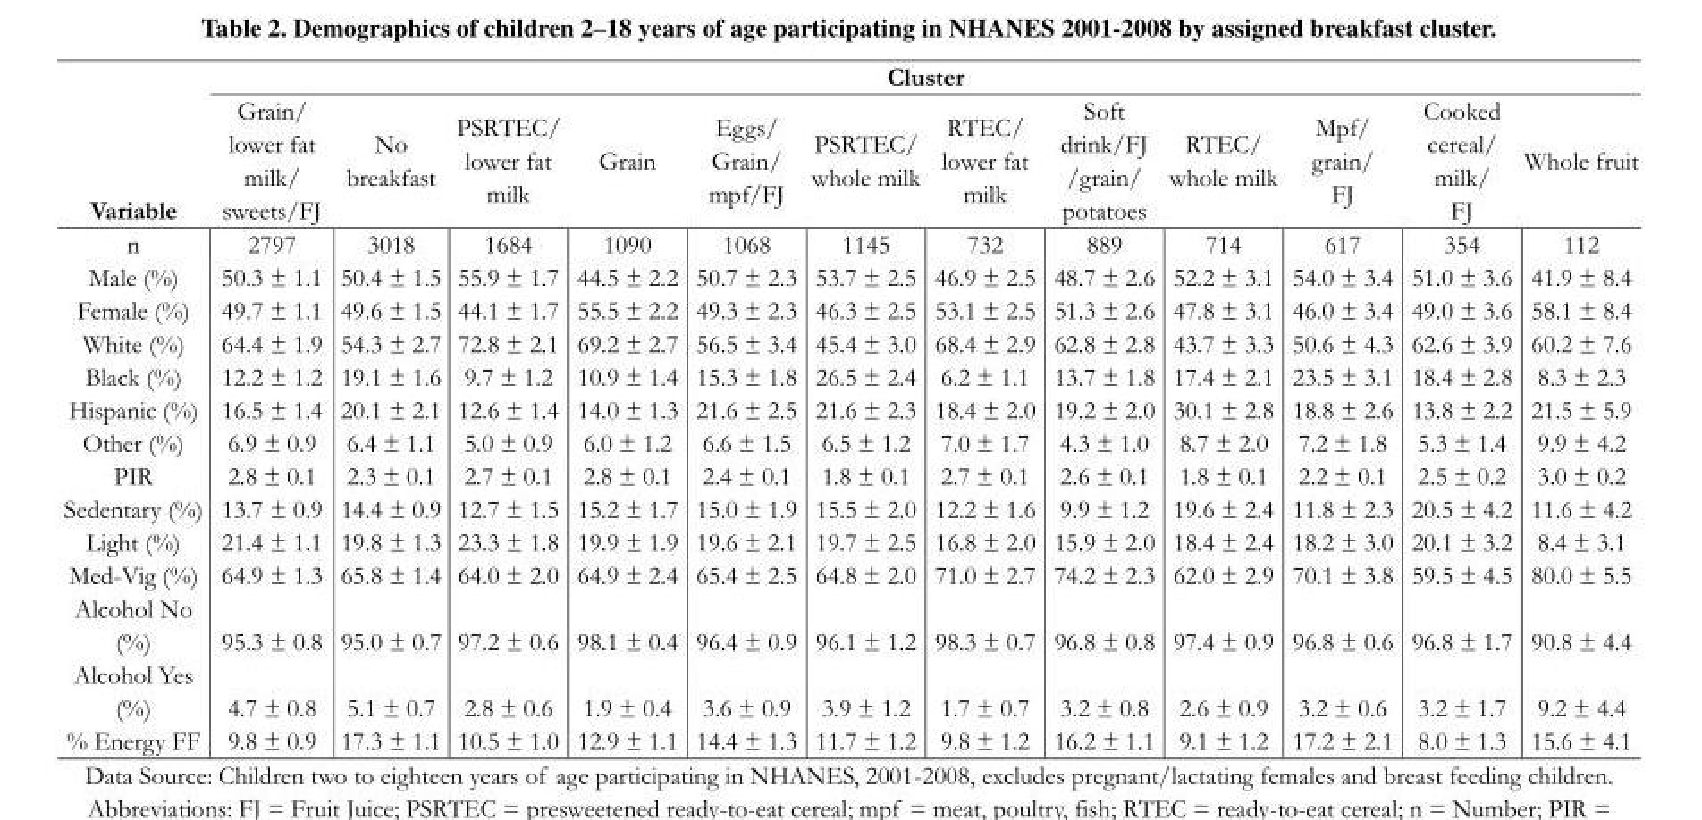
<table><thead><tr><td rowspan="2">Variable</td><td colspan="12">Cluster</td></tr><tr><td>Grain/ lower fat milk/ sweets/FJ</td><td>No breakfast</td><td>PSRTEC/ lower fat milk</td><td>Grain</td><td>Eggs/ Grain/ mpf/FJ</td><td>PSRTEC/ whole milk</td><td>RTEC/ lower fat milk</td><td>Soft drink/FJ /grain/ potatoes</td><td>RTEC/ whole milk</td><td>Mpf/ grain/ FJ</td><td>Cooked cereal/ milk/ FJ</td><td>Whole fruit</td></tr></thead><tbody><tr><td>n</td><td>2797</td><td>3018</td><td>1684</td><td>1090</td><td>1068</td><td>1145</td><td>732</td><td>889</td><td>714</td><td>617</td><td>354</td><td>112</td></tr><tr><td>Male (%)</td><td>50.3 ± 1.1</td><td>50.4 ± 1.5</td><td>55.9 ± 1.7</td><td>44.5 ± 2.2</td><td>50.7 ± 2.3</td><td>53.7 ± 2.5</td><td>46.9 ± 2.5</td><td>48.7 ± 2.6</td><td>52.2 ± 3.1</td><td>54.0 ± 3.4</td><td>51.0 ± 3.6</td><td>41.9 ± 8.4</td></tr><tr><td>Female (%)</td><td>49.7 ± 1.1</td><td>49.6 ± 1.5</td><td>44.1 ± 1.7</td><td>55.5 ± 2.2</td><td>49.3 ± 2.3</td><td>46.3 ± 2.5</td><td>53.1 ± 2.5</td><td>51.3 ± 2.6</td><td>47.8 ± 3.1</td><td>46.0 ± 3.4</td><td>49.0 ± 3.6</td><td>58.1 ± 8.4</td></tr><tr><td>White (%)</td><td>64.4 ± 1.9</td><td>54.3 ± 2.7</td><td>72.8 ± 2.1</td><td>69.2 ± 2.7</td><td>56.5 ± 3.4</td><td>45.4 ± 3.0</td><td>68.4 ± 2.9</td><td>62.8 ± 2.8</td><td>43.7 ± 3.3</td><td>50.6 ± 4.3</td><td>62.6 ± 3.9</td><td>60.2 ± 7.6</td></tr><tr><td>Black (%)</td><td>12.2 ± 1.2</td><td>19.1 ± 1.6</td><td>9.7 ± 1.2</td><td>10.9 ± 1.4</td><td>15.3 ± 1.8</td><td>26.5 ± 2.4</td><td>6.2 ± 1.1</td><td>13.7 ± 1.8</td><td>17.4 ± 2.1</td><td>23.5 ± 3.1</td><td>18.4 ± 2.8</td><td>8.3 ± 2.3</td></tr><tr><td>Hispanic (%)</td><td>16.5 ± 1.4</td><td>20.1 ± 2.1</td><td>12.6 ± 1.4</td><td>14.0 ± 1.3</td><td>21.6 ± 2.5</td><td>21.6 ± 2.3</td><td>18.4 ± 2.0</td><td>19.2 ± 2.0</td><td>30.1 ± 2.8</td><td>18.8 ± 2.6</td><td>13.8 ± 2.2</td><td>21.5 ± 5.9</td></tr><tr><td>Other (%)</td><td>6.9 ± 0.9</td><td>6.4 ± 1.1</td><td>5.0 ± 0.9</td><td>6.0 ± 1.2</td><td>6.6 ± 1.5</td><td>6.5 ± 1.2</td><td>7.0 ± 1.7</td><td>4.3 ± 1.0</td><td>8.7 ± 2.0</td><td>7.2 ± 1.8</td><td>5.3 ± 1.4</td><td>9.9 ± 4.2</td></tr><tr><td>PIR</td><td>2.8 ± 0.1</td><td>2.3 ± 0.1</td><td>2.7 ± 0.1</td><td>2.8 ± 0.1</td><td>2.4 ± 0.1</td><td>1.8 ± 0.1</td><td>2.7 ± 0.1</td><td>2.6 ± 0.1</td><td>1.8 ± 0.1</td><td>2.2 ± 0.1</td><td>2.5 ± 0.2</td><td>3.0 ± 0.2</td></tr><tr><td>Sedentary (%)</td><td>13.7 ± 0.9</td><td>14.4 ± 0.9</td><td>12.7 ± 1.5</td><td>15.2 ± 1.7</td><td>15.0 ± 1.9</td><td>15.5 ± 2.0</td><td>12.2 ± 1.6</td><td>9.9 ± 1.2</td><td>19.6 ± 2.4</td><td>11.8 ± 2.3</td><td>20.5 ± 4.2</td><td>11.6 ± 4.2</td></tr><tr><td>Light (%)</td><td>21.4 ± 1.1</td><td>19.8 ± 1.3</td><td>23.3 ± 1.8</td><td>19.9 ± 1.9</td><td>19.6 ± 2.1</td><td>19.7 ± 2.5</td><td>16.8 ± 2.0</td><td>15.9 ± 2.0</td><td>18.4 ± 2.4</td><td>18.2 ± 3.0</td><td>20.1 ± 3.2</td><td>8.4 ± 3.1</td></tr><tr><td>Med-Vig (%)</td><td>64.9 ± 1.3</td><td>65.8 ± 1.4</td><td>64.0 ± 2.0</td><td>64.9 ± 2.4</td><td>65.4 ± 2.5</td><td>64.8 ± 2.0</td><td>71.0 ± 2.7</td><td>74.2 ± 2.3</td><td>62.0 ± 2.9</td><td>70.1 ± 3.8</td><td>59.5 ± 4.5</td><td>80.0 ± 5.5</td></tr><tr><td>Alcohol No (%)</td><td>95.3 ± 0.8</td><td>95.0 ± 0.7</td><td>97.2 ± 0.6</td><td>98.1 ± 0.4</td><td>96.4 ± 0.9</td><td>96.1 ± 1.2</td><td>98.3 ± 0.7</td><td>96.8 ± 0.8</td><td>97.4 ± 0.9</td><td>96.8 ± 0.6</td><td>96.8 ± 1.7</td><td>90.8 ± 4.4</td></tr><tr><td>Alcohol Yes (%)</td><td>4.7 ± 0.8</td><td>5.1 ± 0.7</td><td>2.8 ± 0.6</td><td>1.9 ± 0.4</td><td>3.6 ± 0.9</td><td>3.9 ± 1.2</td><td>1.7 ± 0.7</td><td>3.2 ± 0.8</td><td>2.6 ± 0.9</td><td>3.2 ± 0.6</td><td>3.2 ± 1.7</td><td>9.2 ± 4.4</td></tr><tr><td>% Energy FF</td><td>9.8 ± 0.9</td><td>17.3 ± 1.1</td><td>10.5 ± 1.0</td><td>12.9 ± 1.1</td><td>14.4 ± 1.3</td><td>11.7 ± 1.2</td><td>9.8 ± 1.2</td><td>16.2 ± 1.1</td><td>9.1 ± 1.2</td><td>17.2 ± 2.1</td><td>8.0 ± 1.3</td><td>15.6 ± 4.1</td></tr></tbody></table>